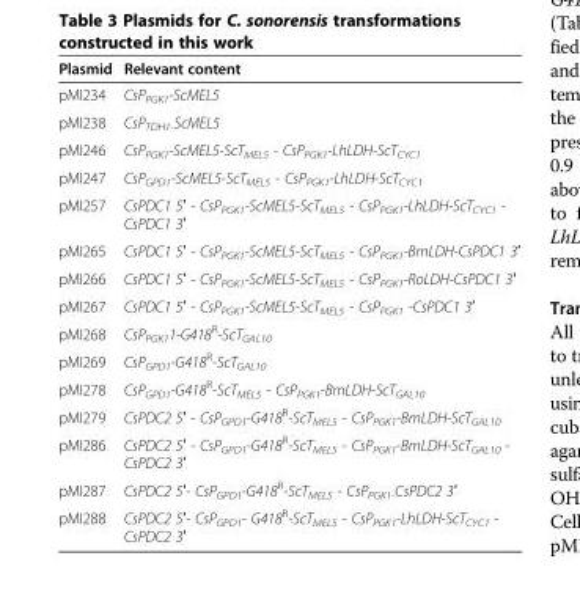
<table><thead><tr><td>Plasmid</td><td>Relevant content</td></tr></thead><tbody><tr><td>pMI234</td><td>CsP<sub>PGK1</sub>-ScMEL5</td></tr><tr><td>pMI238</td><td>CsP<sub>TDH1-</sub>ScMEL5</td></tr><tr><td>pMI246</td><td>CsP<sub>PGK1</sub>-ScMEL5-ScT<sub>MEL5</sub> - CsP<sub>PGK1</sub>-LhLDH-ScT<sub>CYC1</sub></td></tr><tr><td>pMI247</td><td>CsP<sub>GPD1</sub>-ScMEL5-ScT<sub>MEL5</sub> - CsP<sub>PGK1</sub>-LhLDH-ScT<sub>CYC1</sub></td></tr><tr><td>pMI257</td><td>CsPDC1 5′ - CsP<sub>PGK1</sub>-ScMEL5-ScT<sub>MEL5</sub> - CsP<sub>PGK1</sub>-LhLDH-ScT<sub>CYC1</sub> - CsPDC1 3′</td></tr><tr><td>pMI265</td><td>CsPDC1 5′ - CsP<sub>PGK1</sub>-ScMEL5-ScT<sub>MEL5</sub> - CsP<sub>PGK1</sub>-BmLDH-CsPDC1 3′</td></tr><tr><td>pMI266</td><td>CsPDC1 5′ - CsP<sub>PGK1</sub>-ScMEL5-ScT<sub>MEL5</sub> - CsP<sub>PGK1</sub>-RoLDH-CsPDC1 3′</td></tr><tr><td>pMI267</td><td>CsPDC1 5′ - CsP<sub>PGK1</sub>-ScMEL5-ScT<sub>MEL5</sub> - CsP<sub>PGK1</sub> -CsPDC1 3′</td></tr><tr><td>pMI268</td><td>CsP<sub>PGK1</sub>1-G418<sup>R</sup>-ScT<sub>GAL10</sub></td></tr><tr><td>pMI269</td><td>CsP<sub>GPD1</sub>-G418<sup>R</sup>-ScT<sub>GAL10</sub></td></tr><tr><td>pMI278</td><td>CsP<sub>GPD1</sub>-G418<sup>R</sup>-ScT<sub>MEL5</sub> - CsP<sub>PGK1</sub>-BmLDH-ScT<sub>GAL10</sub></td></tr><tr><td>pMI279</td><td>CsPDC2 5′ - CsP<sub>GPD1</sub>-G418<sup>R</sup>-ScT<sub>MEL5</sub> - CsP<sub>PGK1</sub>-BmLDH-ScT<sub>GAL10</sub></td></tr><tr><td>pMI286</td><td>CsPDC2 5′ - CsP<sub>GPD1</sub>-G418<sup>R</sup>-ScT<sub>MEL5</sub> - CsP<sub>PGK1</sub>-BmLDH-ScT<sub>GAL10</sub> - CsPDC2 3′</td></tr><tr><td>pMI287</td><td>CsPDC2 5′- CsP<sub>GPD1</sub>-G418<sup>R</sup>-ScT<sub>MEL5</sub> - CsP<sub>PGK1-</sub>CsPDC2 3′</td></tr><tr><td>pMI288</td><td>CsPDC2 5′- CsP<sub>GPD1</sub>- G418<sup>R</sup>-ScT<sub>MEL5</sub> - CsP<sub>PGK1</sub>-LhLDH-ScT<sub>CYC1</sub> - CsPDC2 3′</td></tr></tbody></table>